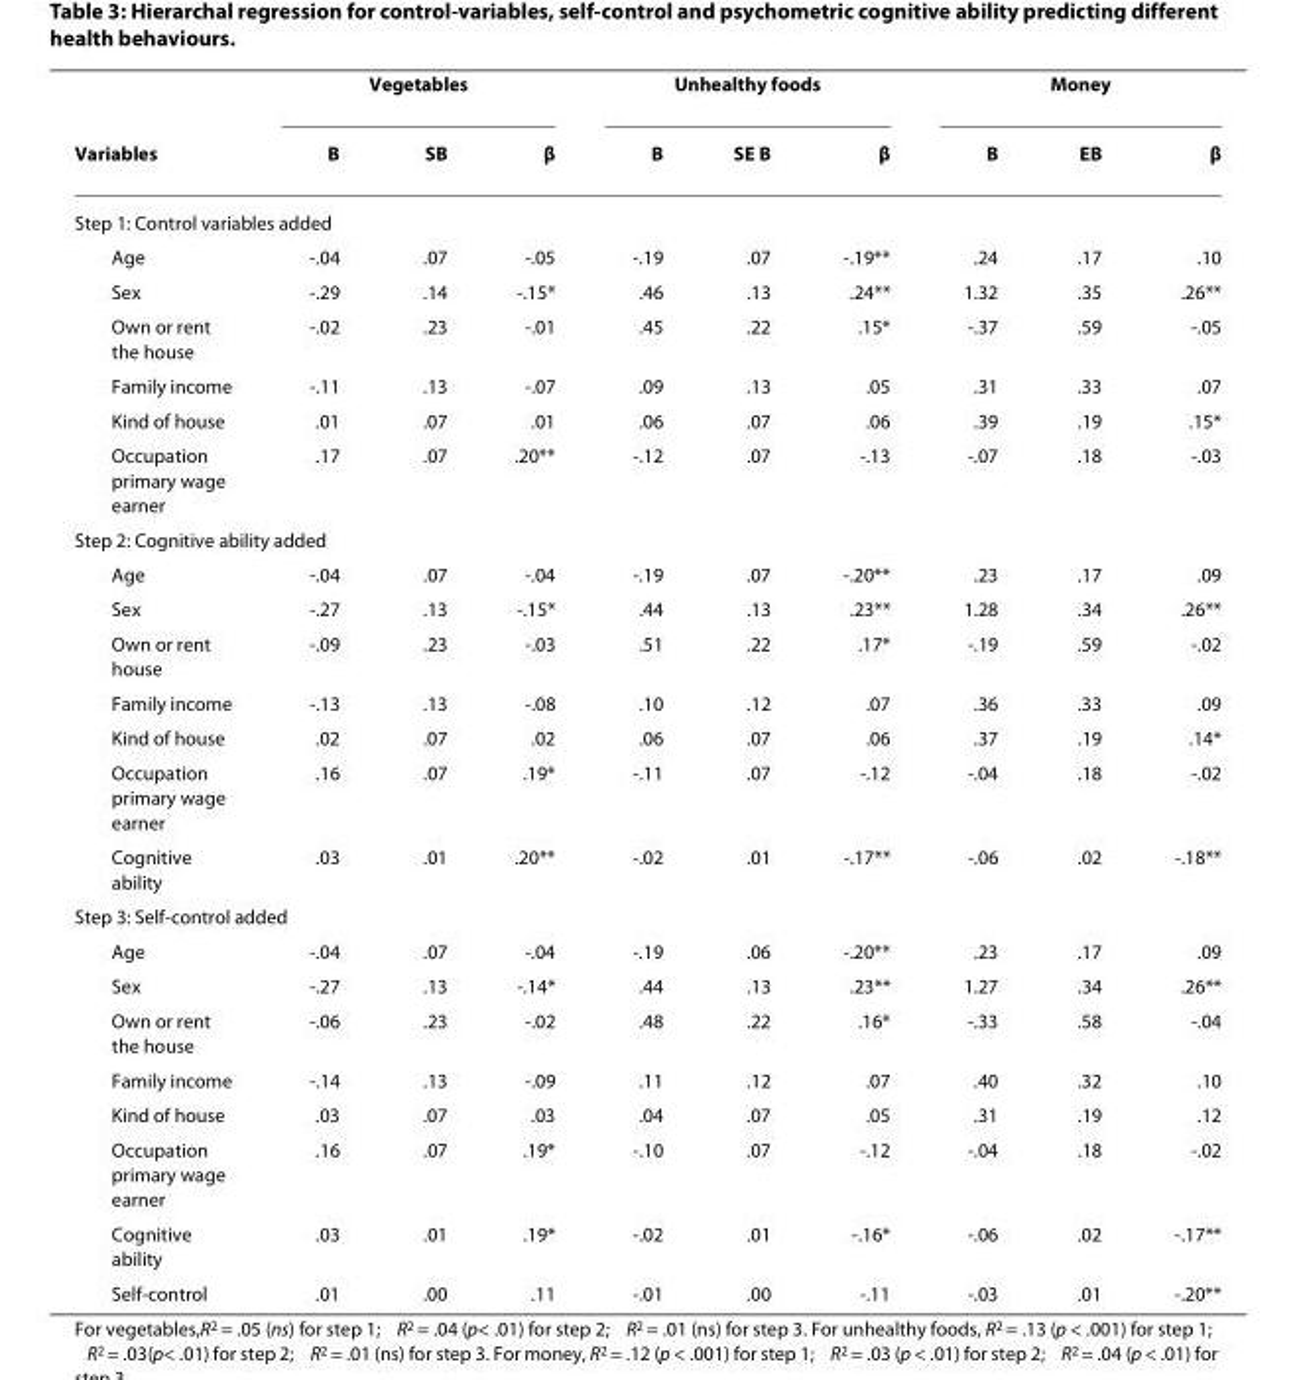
<table><thead><tr><td rowspan="2">Variables</td><td colspan="3">Vegetables</td><td colspan="3">Unhealthy foods</td><td colspan="3">Money</td></tr><tr><td>B</td><td>SB</td><td>β</td><td>B</td><td>SE B</td><td>β</td><td>B</td><td>EB</td><td>β</td></tr></thead><tbody><tr><td colspan="10">Step 1: Control variables added</td></tr><tr><td>Age</td><td>-.04</td><td>.07</td><td>-.05</td><td>-.19</td><td>.07</td><td>-.19**</td><td>.24</td><td>.17</td><td>.10</td></tr><tr><td>Sex</td><td>-.29</td><td>.14</td><td>-.15*</td><td>.46</td><td>.13</td><td>.24**</td><td>1.32</td><td>.35</td><td>.26**</td></tr><tr><td>Own or rent the house</td><td>-.02</td><td>.23</td><td>-.01</td><td>.45</td><td>.22</td><td>.15*</td><td>-.37</td><td>.59</td><td>-.05</td></tr><tr><td>Family income</td><td>-.11</td><td>.13</td><td>-.07</td><td>.09</td><td>.13</td><td>.05</td><td>.31</td><td>.33</td><td>.07</td></tr><tr><td>Kind of house</td><td>.01</td><td>.07</td><td>.01</td><td>.06</td><td>.07</td><td>.06</td><td>.39</td><td>.19</td><td>.15*</td></tr><tr><td>Occupation primary wage earner</td><td>.17</td><td>.07</td><td>.20**</td><td>-.12</td><td>.07</td><td>-.13</td><td>-.07</td><td>.18</td><td>-.03</td></tr><tr><td colspan="10">Step 2: Cognitive ability added</td></tr><tr><td>Age</td><td>-.04</td><td>.07</td><td>-.04</td><td>-.19</td><td>.07</td><td>-.20**</td><td>.23</td><td>.17</td><td>.09</td></tr><tr><td>Sex</td><td>-.27</td><td>.13</td><td>-.15*</td><td>.44</td><td>.13</td><td>.23**</td><td>1.28</td><td>.34</td><td>.26**</td></tr><tr><td>Own or rent house</td><td>-.09</td><td>.23</td><td>-.03</td><td>.51</td><td>.22</td><td>.17*</td><td>-.19</td><td>.59</td><td>-.02</td></tr><tr><td>Family income</td><td>-.13</td><td>.13</td><td>-.08</td><td>.10</td><td>.12</td><td>.07</td><td>.36</td><td>.33</td><td>.09</td></tr><tr><td>Kind of house</td><td>.02</td><td>.07</td><td>.02</td><td>.06</td><td>.07</td><td>.06</td><td>.37</td><td>.19</td><td>.14*</td></tr><tr><td>Occupation primary wage earner</td><td>.16</td><td>.07</td><td>.19*</td><td>-.11</td><td>.07</td><td>-.12</td><td>-.04</td><td>.18</td><td>-.02</td></tr><tr><td>Cognitive ability</td><td>.03</td><td>.01</td><td>.20**</td><td>-.02</td><td>.01</td><td>-.17**</td><td>-.06</td><td>.02</td><td>-.18**</td></tr><tr><td colspan="10">Step 3: Self-control added</td></tr><tr><td>Age</td><td>-.04</td><td>.07</td><td>-.04</td><td>-.19</td><td>.06</td><td>-.20**</td><td>.23</td><td>.17</td><td>.09</td></tr><tr><td>Sex</td><td>-.27</td><td>.13</td><td>-.14*</td><td>.44</td><td>.13</td><td>.23**</td><td>1.27</td><td>.34</td><td>.26**</td></tr><tr><td>Own or rent the house</td><td>-.06</td><td>.23</td><td>-.02</td><td>.48</td><td>.22</td><td>.16*</td><td>-.33</td><td>.58</td><td>-.04</td></tr><tr><td>Family income</td><td>-.14</td><td>.13</td><td>-.09</td><td>.11</td><td>.12</td><td>.07</td><td>.40</td><td>.32</td><td>.10</td></tr><tr><td>Kind of house</td><td>.03</td><td>.07</td><td>.03</td><td>.04</td><td>.07</td><td>.05</td><td>.31</td><td>.19</td><td>.12</td></tr><tr><td>Occupation primary wage earner</td><td>.16</td><td>.07</td><td>.19*</td><td>-.10</td><td>.07</td><td>-.12</td><td>-.04</td><td>.18</td><td>-.02</td></tr><tr><td>Cognitive ability</td><td>.03</td><td>.01</td><td>.19*</td><td>-.02</td><td>.01</td><td>-.16*</td><td>-.06</td><td>.02</td><td>-.17**</td></tr><tr><td>Self-control</td><td>.01</td><td>.00</td><td>.11</td><td>-.01</td><td>.00</td><td>-.11</td><td>-.03</td><td>.01</td><td>-.20**</td></tr></tbody></table>